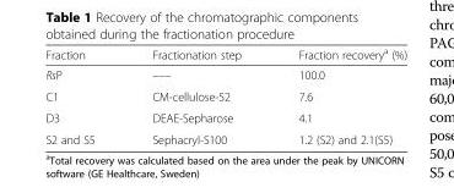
<table><thead><tr><td>Fraction</td><td>Fractionation step</td><td>Fraction recovery<sup>a</sup> (%)</td></tr></thead><tbody><tr><td>RsP</td><td>–––</td><td>100.0</td></tr><tr><td>C1</td><td>CM-cellulose-52</td><td>7.6</td></tr><tr><td>D3</td><td>DEAE-Sepharose</td><td>4.1</td></tr><tr><td>S2 and S5</td><td>Sephacryl-S100</td><td>1.2 (S2) and 2.1(S5)</td></tr></tbody></table>